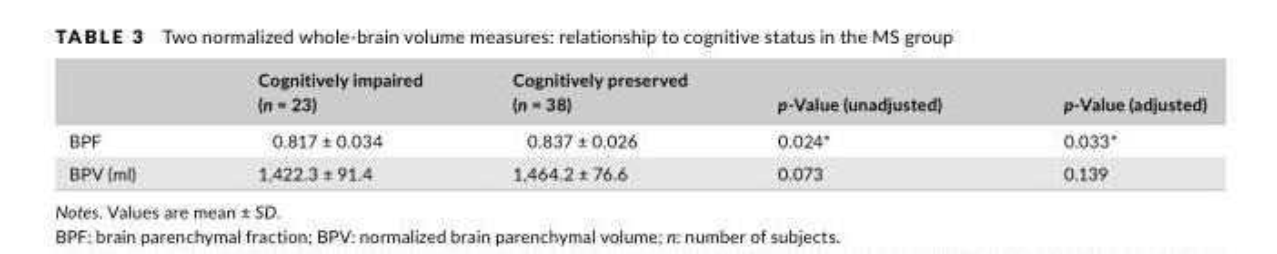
<table><thead><tr><td></td><td>Cognitively impaired (n = 23)</td><td>Cognitively preserved (n = 38)</td><td>p- Value (unadjusted)</td><td>p- Value (adjusted)</td></tr></thead><tbody><tr><td>BPF</td><td>0.817 ± 0.034</td><td>0.837 ± 0.026</td><td>0.024*</td><td>0.033*</td></tr><tr><td>BPV (ml)</td><td>1,422.3 ± 91.4</td><td>1,464.2 ± 76.6</td><td>0.073</td><td>0.139</td></tr></tbody></table>